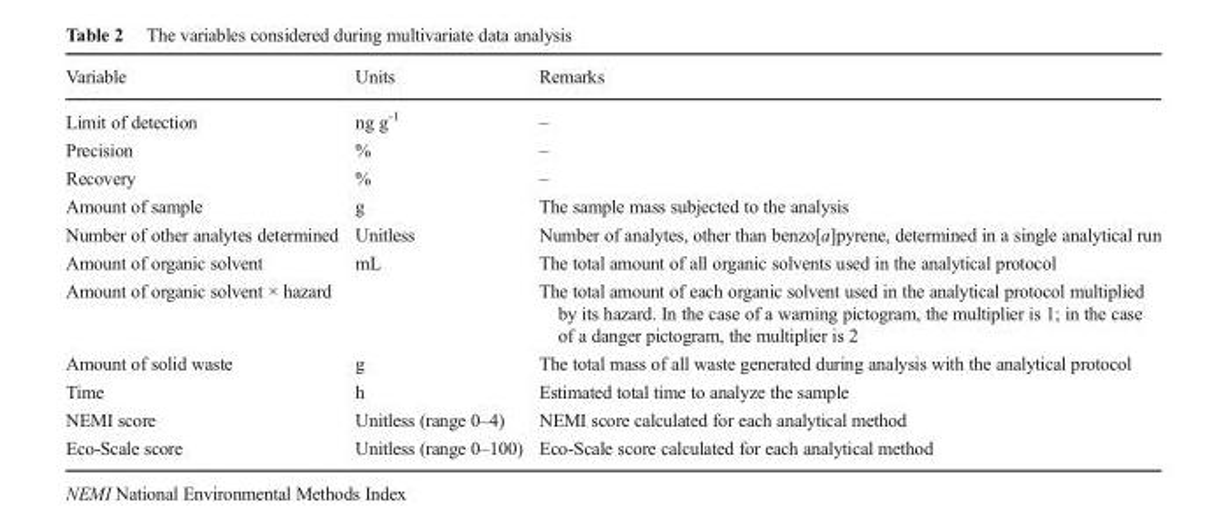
<table><thead><tr><td>Variable</td><td>Units</td><td>Remarks</td></tr></thead><tbody><tr><td>Limit of detection</td><td>ng g<sup>-1</sup></td><td>–</td></tr><tr><td>Precision</td><td>%</td><td>–</td></tr><tr><td>Recovery</td><td>%</td><td>–</td></tr><tr><td>Amount of sample</td><td>g</td><td>The sample mass subjected to the analysis</td></tr><tr><td>Number of other analytes determined</td><td>Unitless</td><td>Number of analytes, other than benzo[a]pyrene, determined in a single analytical run</td></tr><tr><td>Amount of organic solvent</td><td>mL</td><td>The total amount of all organic solvents used in the analytical protocol</td></tr><tr><td>Amount of organic solvent × hazard</td><td></td><td>The total amount of each organic solvent used in the analytical protocol multiplied by its hazard. In the case of a warning pictogram, the multiplier is 1; in the case of a danger pictogram, the multiplier is 2</td></tr><tr><td>Amount of solid waste</td><td>g</td><td>The total mass of all waste generated during analysis with the analytical protocol</td></tr><tr><td>Time</td><td>h</td><td>Estimated total time to analyze the sample</td></tr><tr><td>NEMI score</td><td>Unitless (range 0–4)</td><td>NEMI score calculated for each analytical method</td></tr><tr><td>Eco-Scale score</td><td>Unitless (range 0–100)</td><td>Eco-Scale score calculated for each analytical method</td></tr></tbody></table>